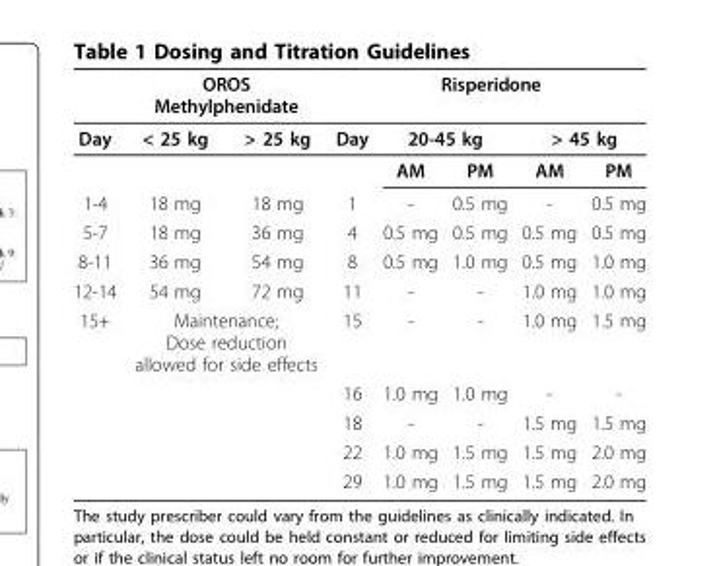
<table><thead><tr><td rowspan="3">Day</td><td colspan="2">OROS Methylphenidate</td><td colspan="5">Risperidone</td></tr><tr><td rowspan="2">&lt; 25 kg</td><td rowspan="2">&gt; 25 kg</td><td rowspan="2">Day</td><td colspan="2">20-45 kg</td><td colspan="2">&gt; 45 kg</td></tr><tr><td>AM</td><td>PM</td><td>AM</td><td>PM</td></tr></thead><tbody><tr><td>1-4</td><td>18 mg</td><td>18 mg</td><td>1</td><td>-</td><td>0.5 mg</td><td>-</td><td>0.5 mg</td></tr><tr><td>5-7</td><td>18 mg</td><td>36 mg</td><td>4</td><td>0.5 mg</td><td>0.5 mg</td><td>0.5 mg</td><td>0.5 mg</td></tr><tr><td>8-11</td><td>36 mg</td><td>54 mg</td><td>8</td><td>0.5 mg</td><td>1.0 mg</td><td>0.5 mg</td><td>1.0 mg</td></tr><tr><td>12-14</td><td>54 mg</td><td>72 mg</td><td>11</td><td>-</td><td>-</td><td>1.0 mg</td><td>1.0 mg</td></tr><tr><td rowspan="5">15+</td><td colspan="2">Maintenance; Dose reduction allowed for side effects</td><td>15</td><td>-</td><td>-</td><td>1.0 mg</td><td>1.5 mg</td></tr><tr><td></td><td></td><td>16</td><td>1.0 mg</td><td>1.0 mg</td><td>-</td><td>-</td></tr><tr><td></td><td></td><td>18</td><td>-</td><td>-</td><td>1.5 mg</td><td>1.5 mg</td></tr><tr><td></td><td></td><td>22</td><td>1.0 mg</td><td>1.5 mg</td><td>1.5 mg</td><td>2.0 mg</td></tr><tr><td></td><td></td><td>29</td><td>1.0 mg</td><td>1.5 mg</td><td>1.5 mg</td><td>2.0 mg</td></tr></tbody></table>